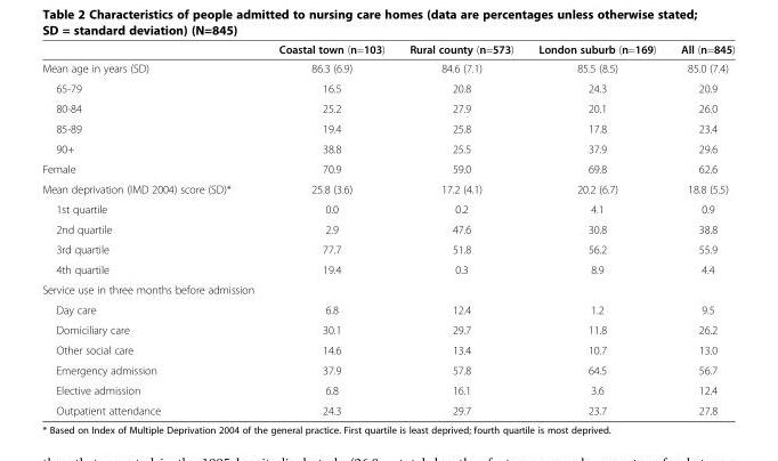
<table><thead><tr><td></td><td>Coastal town (n=103)</td><td>Rural county (n=573)</td><td>London suburb (n=169)</td><td>All (n=845)</td></tr></thead><tbody><tr><td>Mean age in years (SD)</td><td>86.3 (6.9)</td><td>84.6 (7.1)</td><td>85.5 (8.5)</td><td>85.0 (7.4)</td></tr><tr><td>65-79</td><td>16.5</td><td>20.8</td><td>24.3</td><td>20.9</td></tr><tr><td>80-84</td><td>25.2</td><td>27.9</td><td>20.1</td><td>26.0</td></tr><tr><td>85-89</td><td>19.4</td><td>25.8</td><td>17.8</td><td>23.4</td></tr><tr><td>90+</td><td>38.8</td><td>25.5</td><td>37.9</td><td>29.6</td></tr><tr><td>Female</td><td>70.9</td><td>59.0</td><td>69.8</td><td>62.6</td></tr><tr><td>Mean deprivation (IMD 2004) score (SD)*</td><td>25.8 (3.6)</td><td>17.2 (4.1)</td><td>20.2 (6.7)</td><td>18.8 (5.5)</td></tr><tr><td>1st quartile</td><td>0.0</td><td>0.2</td><td>4.1</td><td>0.9</td></tr><tr><td>2nd quartile</td><td>2.9</td><td>47.6</td><td>30.8</td><td>38.8</td></tr><tr><td>3rd quartile</td><td>77.7</td><td>51.8</td><td>56.2</td><td>55.9</td></tr><tr><td>4th quartile</td><td>19.4</td><td>0.3</td><td>8.9</td><td>4.4</td></tr><tr><td colspan="5">Service use in three months before admission</td></tr><tr><td>Day care</td><td>6.8</td><td>12.4</td><td>1.2</td><td>9.5</td></tr><tr><td>Domiciliary care</td><td>30.1</td><td>29.7</td><td>11.8</td><td>26.2</td></tr><tr><td>Other social care</td><td>14.6</td><td>13.4</td><td>10.7</td><td>13.0</td></tr><tr><td>Emergency admission</td><td>37.9</td><td>57.8</td><td>64.5</td><td>56.7</td></tr><tr><td>Elective admission</td><td>6.8</td><td>16.1</td><td>3.6</td><td>12.4</td></tr><tr><td>Outpatient attendance</td><td>24.3</td><td>29.7</td><td>23.7</td><td>27.8</td></tr></tbody></table>